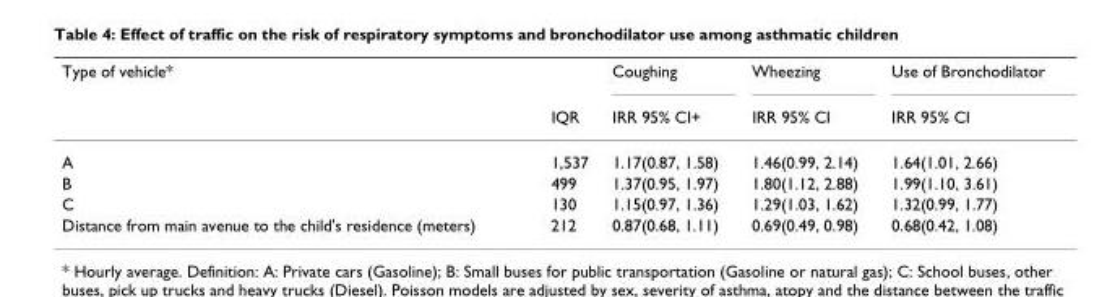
<table><thead><tr><td rowspan="2">Type of vehicle*</td><td rowspan="2">IQR</td><td rowspan="2">Coughing IRR 95% CI+</td><td rowspan="2">Wheezing IRR 95% CI</td><td rowspan="2">Use of Bronchodilator IRR 95% CI</td></tr><tr></tr></thead><tbody><tr><td>A</td><td>1,537</td><td>1.17(0.87, 1.58)</td><td>1.46(0.99, 2.14)</td><td>1.64(1.01, 2.66)</td></tr><tr><td>B</td><td>499</td><td>1.37(0.95, 1.97)</td><td>1.80(1.12, 2.88)</td><td>1.99(1.10, 3.61)</td></tr><tr><td>C</td><td>130</td><td>1.15(0.97, 1.36)</td><td>1.29(1.03, 1.62)</td><td>1.32(0.99, 1.77)</td></tr><tr><td>Distance from main avenue to the child&#x27;s residence (meters)</td><td>212</td><td>0.87(0.68, 1.11)</td><td>0.69(0.49, 0.98)</td><td>0.68(0.42, 1.08)</td></tr></tbody></table>